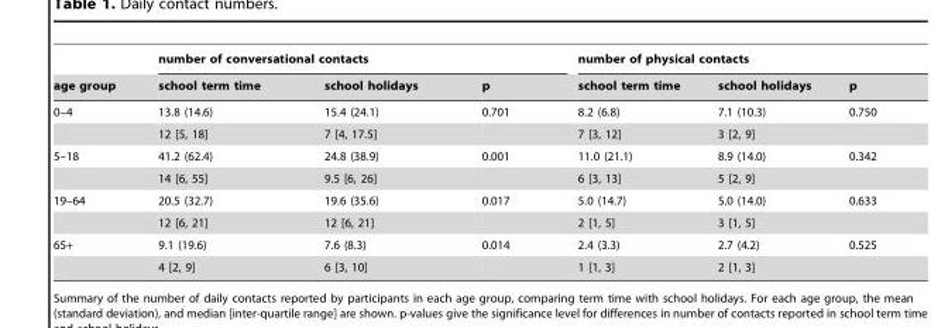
<table><thead><tr><td rowspan="2">age group</td><td colspan="3">number of conversational contacts</td><td colspan="3">number of physical contacts</td></tr><tr><td>school term time</td><td>school holidays</td><td>p</td><td>school term time</td><td>school holidays</td><td>p</td></tr></thead><tbody><tr><td rowspan="2">0–4</td><td>13.8 (14.6)</td><td>15.4 (24.1)</td><td>0.701</td><td>8.2 (6.8)</td><td>7.1 (10.3)</td><td>0.750</td></tr><tr><td>12 [5, 18]</td><td>7 [4, 17.5]</td><td></td><td>7 [3, 12]</td><td>3 [2, 9]</td><td></td></tr><tr><td rowspan="2">5–18</td><td>41.2 (62.4)</td><td>24.8 (38.9)</td><td>0.001</td><td>11.0 (21.1)</td><td>8.9 (14.0)</td><td>0.342</td></tr><tr><td>14 [6, 55]</td><td>9.5 [6, 26]</td><td></td><td>6 [3, 13]</td><td>5 [2, 9]</td><td></td></tr><tr><td rowspan="2">19–64</td><td>20.5 (32.7)</td><td>19.6 (35.6)</td><td>0.017</td><td>5.0 (14.7)</td><td>5.0 (14.0)</td><td>0.633</td></tr><tr><td>12 [6, 21]</td><td>12 [6, 21]</td><td></td><td>2 [1, 5]</td><td>3 [1, 5]</td><td></td></tr><tr><td rowspan="2">65+</td><td>9.1 (19.6)</td><td>7.6 (8.3)</td><td>0.014</td><td>2.4 (3.3)</td><td>2.7 (4.2)</td><td>0.525</td></tr><tr><td>4 [2, 9]</td><td>6 [3, 10]</td><td></td><td>1 [1, 3]</td><td>2 [1, 3]</td><td></td></tr></tbody></table>